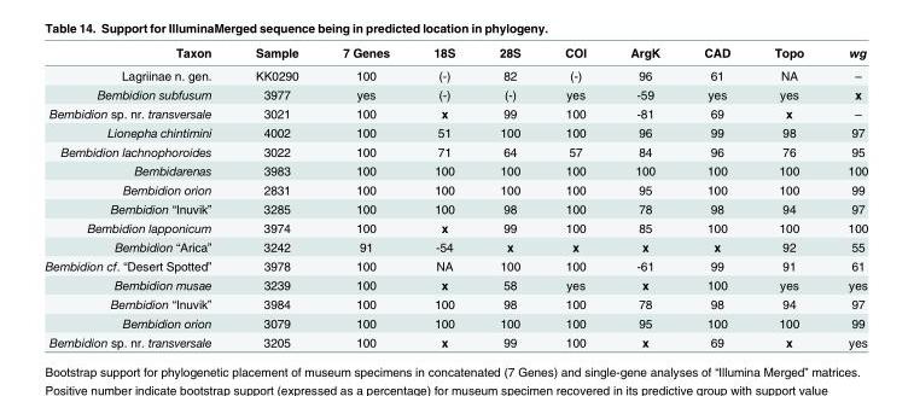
<table><thead><tr><td>Taxon</td><td>Sample</td><td>7 Genes</td><td>18S</td><td>28S</td><td>COI</td><td>ArgK</td><td>CAD</td><td>Topo</td><td>wg</td></tr></thead><tbody><tr><td>Lagriinae n. gen.</td><td>KK0290</td><td>100</td><td>(-)</td><td>82</td><td>(-)</td><td>96</td><td>61</td><td>NA</td><td>–</td></tr><tr><td>Bembidion subfusum</td><td>3977</td><td>yes</td><td>(-)</td><td>(-)</td><td>yes</td><td>-59</td><td>yes</td><td>yes</td><td>x</td></tr><tr><td>Bembidion sp. nr. transversale</td><td>3021</td><td>100</td><td>x</td><td>99</td><td>100</td><td>-81</td><td>69</td><td>x</td><td>–</td></tr><tr><td>Lionepha chintimini</td><td>4002</td><td>100</td><td>51</td><td>100</td><td>100</td><td>96</td><td>99</td><td>98</td><td>97</td></tr><tr><td>Bembidion lachnophoroides</td><td>3022</td><td>100</td><td>71</td><td>64</td><td>57</td><td>84</td><td>96</td><td>76</td><td>95</td></tr><tr><td>Bembidarenas</td><td>3983</td><td>100</td><td>100</td><td>100</td><td>100</td><td>100</td><td>100</td><td>100</td><td>100</td></tr><tr><td>Bembidion orion</td><td>2831</td><td>100</td><td>100</td><td>100</td><td>100</td><td>95</td><td>100</td><td>100</td><td>99</td></tr><tr><td>Bembidion “Inuvik”</td><td>3285</td><td>100</td><td>100</td><td>98</td><td>100</td><td>78</td><td>98</td><td>94</td><td>97</td></tr><tr><td>Bembidion lapponicum</td><td>3974</td><td>100</td><td>x</td><td>99</td><td>100</td><td>85</td><td>100</td><td>100</td><td>100</td></tr><tr><td>Bembidion “Arica”</td><td>3242</td><td>91</td><td>-54</td><td>x</td><td>x</td><td>x</td><td>x</td><td>92</td><td>55</td></tr><tr><td>Bembidion cf. “Desert Spotted”</td><td>3978</td><td>100</td><td>NA</td><td>100</td><td>100</td><td>-61</td><td>99</td><td>91</td><td>61</td></tr><tr><td>Bembidion musae</td><td>3239</td><td>100</td><td>x</td><td>58</td><td>yes</td><td>x</td><td>100</td><td>yes</td><td>yes</td></tr><tr><td>Bembidion “Inuvik”</td><td>3984</td><td>100</td><td>100</td><td>98</td><td>100</td><td>78</td><td>98</td><td>94</td><td>97</td></tr><tr><td>Bembidion orion</td><td>3079</td><td>100</td><td>100</td><td>100</td><td>100</td><td>95</td><td>100</td><td>100</td><td>99</td></tr><tr><td>Bembidion sp. nr. transversale</td><td>3205</td><td>100</td><td>x</td><td>99</td><td>100</td><td>x</td><td>69</td><td>x</td><td>yes</td></tr></tbody></table>